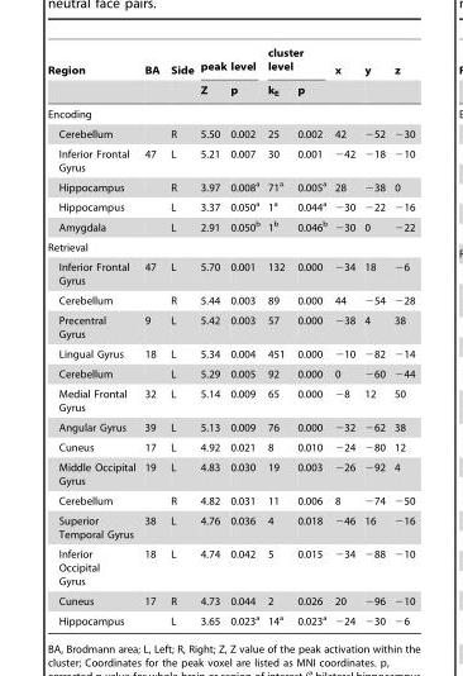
<table><thead><tr><td rowspan="2">Region</td><td rowspan="2">BA</td><td rowspan="2">Side</td><td colspan="2">peak level</td><td colspan="2">cluster level</td><td rowspan="2">x</td><td rowspan="2">y</td><td rowspan="2">z</td></tr><tr><td>Z</td><td>p</td><td>k<sub>E</sub></td><td>p</td></tr></thead><tbody><tr><td colspan="10">Encoding</td></tr><tr><td>Cerebellum</td><td></td><td>R</td><td>5.50</td><td>0.002</td><td>25</td><td>0.002</td><td>42</td><td>−52</td><td>−30</td></tr><tr><td>Inferior Frontal Gyrus</td><td>47</td><td>L</td><td>5.21</td><td>0.007</td><td>30</td><td>0.001</td><td>−42</td><td>−18</td><td>−10</td></tr><tr><td>Hippocampus</td><td></td><td>R</td><td>3.97</td><td>0.008<sup>a</sup></td><td>71<sup>a</sup></td><td>0.005<sup>a</sup></td><td>28</td><td>−38</td><td>0</td></tr><tr><td>Hippocampus</td><td></td><td>L</td><td>3.37</td><td>0.050<sup>a</sup></td><td>1<sup>a</sup></td><td>0.044<sup>a</sup></td><td>−30</td><td>−22</td><td>−16</td></tr><tr><td>Amygdala</td><td></td><td>L</td><td>2.91</td><td>0.050<sup>b</sup></td><td>1<sup>b</sup></td><td>0.046<sup>b</sup></td><td>−30</td><td>0</td><td>−22</td></tr><tr><td colspan="10">Retrieval</td></tr><tr><td>Inferior Frontal Gyrus</td><td>47</td><td>L</td><td>5.70</td><td>0.001</td><td>132</td><td>0.000</td><td>−34</td><td>18</td><td>−6</td></tr><tr><td>Cerebellum</td><td></td><td>R</td><td>5.44</td><td>0.003</td><td>89</td><td>0.000</td><td>44</td><td>−54</td><td>−28</td></tr><tr><td>Precentral Gyrus</td><td>9</td><td>L</td><td>5.42</td><td>0.003</td><td>57</td><td>0.000</td><td>−38</td><td>4</td><td>38</td></tr><tr><td>Lingual Gyrus</td><td>18</td><td>L</td><td>5.34</td><td>0.004</td><td>451</td><td>0.000</td><td>−10</td><td>−82</td><td>−14</td></tr><tr><td>Cerebellum</td><td></td><td>L</td><td>5.29</td><td>0.005</td><td>92</td><td>0.000</td><td>0</td><td>−60</td><td>−44</td></tr><tr><td>Medial Frontal Gyrus</td><td>32</td><td>L</td><td>5.14</td><td>0.009</td><td>65</td><td>0.000</td><td>−8</td><td>12</td><td>50</td></tr><tr><td>Angular Gyrus</td><td>39</td><td>L</td><td>5.13</td><td>0.009</td><td>76</td><td>0.000</td><td>−32</td><td>−62</td><td>38</td></tr><tr><td>Cuneus</td><td>17</td><td>L</td><td>4.92</td><td>0.021</td><td>8</td><td>0.010</td><td>−24</td><td>−80</td><td>12</td></tr><tr><td>Middle Occipital Gyrus</td><td>19</td><td>L</td><td>4.83</td><td>0.030</td><td>19</td><td>0.003</td><td>−26</td><td>−92</td><td>4</td></tr><tr><td>Cerebellum</td><td></td><td>R</td><td>4.82</td><td>0.031</td><td>11</td><td>0.006</td><td>8</td><td>−74</td><td>−50</td></tr><tr><td>Superior Temporal Gyrus</td><td>38</td><td>L</td><td>4.76</td><td>0.036</td><td>4</td><td>0.018</td><td>−46</td><td>16</td><td>−16</td></tr><tr><td>Inferior Occipital Gyrus</td><td>18</td><td>L</td><td>4.74</td><td>0.042</td><td>5</td><td>0.015</td><td>−34</td><td>−88</td><td>−10</td></tr><tr><td>Cuneus</td><td>17</td><td>R</td><td>4.73</td><td>0.044</td><td>2</td><td>0.026</td><td>20</td><td>−96</td><td>−10</td></tr><tr><td>Hippocampus</td><td></td><td>L</td><td>3.65</td><td>0.023<sup>a</sup></td><td>14<sup>a</sup></td><td>0.023<sup>a</sup></td><td>−24</td><td>−30</td><td>−6</td></tr></tbody></table>